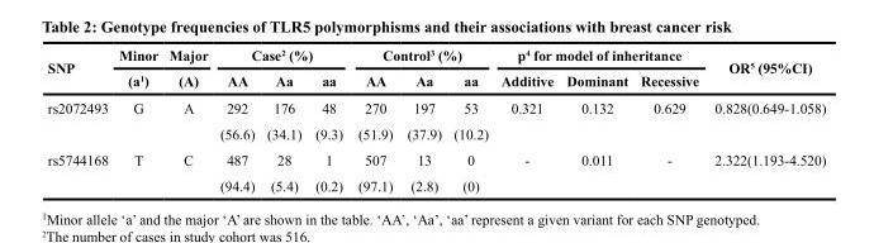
<table><thead><tr><td rowspan="2">SNP</td><td rowspan="2">Minor (a<sup>1</sup>)</td><td rowspan="2">Major (A)</td><td colspan="3">Case<sup>2</sup> (%)</td><td colspan="3">Control<sup>3</sup> (%)</td><td colspan="3">p<sup>4</sup> for model of inheritance</td><td rowspan="2">OR<sup>5</sup> (95%CI)</td></tr><tr><td>AA</td><td>Aa</td><td>aa</td><td>AA</td><td>Aa</td><td>aa</td><td>Additive</td><td>Dominant</td><td>Recessive</td></tr></thead><tbody><tr><td rowspan="2">rs2072493</td><td>G</td><td>A</td><td>292</td><td>176</td><td>48</td><td>270</td><td>197</td><td>53</td><td>0.321</td><td>0.132</td><td>0.629</td><td>0.828(0.649-1.058)</td></tr><tr><td></td><td></td><td>(56.6)</td><td>(34.1)</td><td>(9.3)</td><td>(51.9)</td><td>(37.9)</td><td>(10.2)</td><td></td><td></td><td></td><td></td></tr><tr><td rowspan="2">rs5744168</td><td>T</td><td>C</td><td>487</td><td>28</td><td>1</td><td>507</td><td>13</td><td>0</td><td>-</td><td>0.011</td><td>-</td><td>2.322(1.193-4.520)</td></tr><tr><td></td><td></td><td>(94.4)</td><td>(5.4)</td><td>(0.2)</td><td>(97.1)</td><td>(2.8)</td><td>(0)</td><td></td><td></td><td></td><td></td></tr></tbody></table>